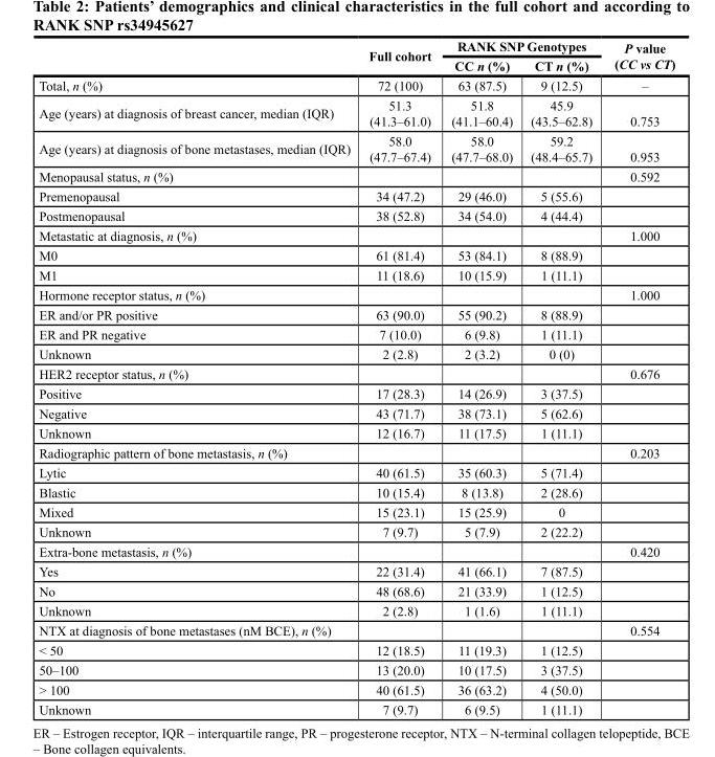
<table><thead><tr><td rowspan="2"></td><td rowspan="2">Full cohort</td><td colspan="2">rAnK snP Genotypes</td><td rowspan="2">P value (CC vs CT)</td></tr><tr><td>cc n (%)</td><td>ct n (%)</td></tr></thead><tbody><tr><td>Total, n (%)</td><td>72 (100)</td><td>63 (87.5)</td><td>9 (12.5)</td><td>–</td></tr><tr><td>Age (years) at diagnosis of breast cancer, median (IQR)</td><td>51.3 (41.3–61.0)</td><td>51.8 (41.1–60.4)</td><td>45.9 (43.5–62.8)</td><td>0.753</td></tr><tr><td>Age (years) at diagnosis of bone metastases, median (IQR)</td><td>58.0 (47.7–67.4)</td><td>58.0 (47.7–68.0)</td><td>59.2 (48.4–65.7)</td><td>0.953</td></tr><tr><td>Menopausal status, n (%)</td><td></td><td></td><td></td><td>0.592</td></tr><tr><td>Premenopausal</td><td>34 (47.2)</td><td>29 (46.0)</td><td>5 (55.6)</td><td></td></tr><tr><td>Postmenopausal</td><td>38 (52.8)</td><td>34 (54.0)</td><td>4 (44.4)</td><td></td></tr><tr><td>Metastatic at diagnosis, n (%)</td><td></td><td></td><td></td><td>1.000</td></tr><tr><td>M0</td><td>61 (81.4)</td><td>53 (84.1)</td><td>8 (88.9)</td><td></td></tr><tr><td>M1</td><td>11 (18.6)</td><td>10 (15.9)</td><td>1 (11.1)</td><td></td></tr><tr><td>Hormone receptor status, n (%)</td><td></td><td></td><td></td><td>1.000</td></tr><tr><td>ER and/or PR positive</td><td>63 (90.0)</td><td>55 (90.2)</td><td>8 (88.9)</td><td></td></tr><tr><td>ER and PR negative</td><td>7 (10.0)</td><td>6 (9.8)</td><td>1 (11.1)</td><td></td></tr><tr><td>Unknown</td><td>2 (2.8)</td><td>2 (3.2)</td><td>0 (0)</td><td></td></tr><tr><td>HER2 receptor status, n (%)</td><td></td><td></td><td></td><td>0.676</td></tr><tr><td>Positive</td><td>17 (28.3)</td><td>14 (26.9)</td><td>3 (37.5)</td><td></td></tr><tr><td>Negative</td><td>43 (71.7)</td><td>38 (73.1)</td><td>5 (62.6)</td><td></td></tr><tr><td>Unknown</td><td>12 (16.7)</td><td>11 (17.5)</td><td>1 (11.1)</td><td></td></tr><tr><td>Radiographic pattern of bone metastasis, n (%)</td><td></td><td></td><td></td><td>0.203</td></tr><tr><td>Lytic</td><td>40 (61.5)</td><td>35 (60.3)</td><td>5 (71.4)</td><td></td></tr><tr><td>Blastic</td><td>10 (15.4)</td><td>8 (13.8)</td><td>2 (28.6)</td><td></td></tr><tr><td>Mixed</td><td>15 (23.1)</td><td>15 (25.9)</td><td>0</td><td></td></tr><tr><td>Unknown</td><td>7 (9.7)</td><td>5 (7.9)</td><td>2 (22.2)</td><td></td></tr><tr><td>Extra-bone metastasis, n (%)</td><td></td><td></td><td></td><td>0.420</td></tr><tr><td>Yes</td><td>22 (31.4)</td><td>41 (66.1)</td><td>7 (87.5)</td><td></td></tr><tr><td>No</td><td>48 (68.6)</td><td>21 (33.9)</td><td>1 (12.5)</td><td></td></tr><tr><td>Unknown</td><td>2 (2.8)</td><td>1 (1.6)</td><td>1 (11.1)</td><td></td></tr><tr><td>NTX at diagnosis of bone metastases (nM BCE), n (%)</td><td></td><td></td><td></td><td>0.554</td></tr><tr><td>&lt; 50</td><td>12 (18.5)</td><td>11 (19.3)</td><td>1 (12.5)</td><td></td></tr><tr><td>50–100</td><td>13 (20.0)</td><td>10 (17.5)</td><td>3 (37.5)</td><td></td></tr><tr><td>&gt; 100</td><td>40 (61.5)</td><td>36 (63.2)</td><td>4 (50.0)</td><td></td></tr><tr><td>Unknown</td><td>7 (9.7)</td><td>6 (9.5)</td><td>1 (11.1)</td><td></td></tr></tbody></table>